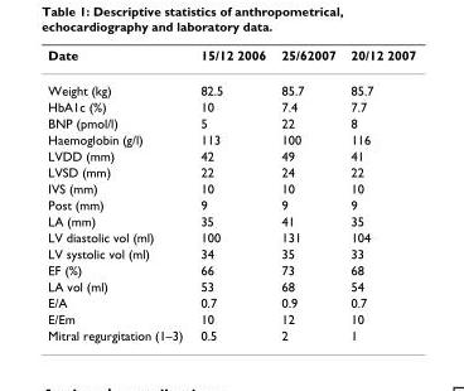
<table><thead><tr><td>Date</td><td>15/12 2006</td><td>25/62007</td><td>20/12 2007</td></tr></thead><tbody><tr><td>Weight (kg)</td><td>82.5</td><td>85.7</td><td>85.7</td></tr><tr><td>HbA1c (%)</td><td>10</td><td>7.4</td><td>7.7</td></tr><tr><td>BNP (pmol/l)</td><td>5</td><td>22</td><td>8</td></tr><tr><td>Haemoglobin (g/l)</td><td>113</td><td>100</td><td>116</td></tr><tr><td>LVDD (mm)</td><td>42</td><td>49</td><td>41</td></tr><tr><td>LVSD (mm)</td><td>22</td><td>24</td><td>22</td></tr><tr><td>IVS (mm)</td><td>10</td><td>10</td><td>10</td></tr><tr><td>Post (mm)</td><td>9</td><td>9</td><td>9</td></tr><tr><td>LA (mm)</td><td>35</td><td>41</td><td>35</td></tr><tr><td>LV diastolic vol (ml)</td><td>100</td><td>131</td><td>104</td></tr><tr><td>LV systolic vol (ml)</td><td>34</td><td>35</td><td>33</td></tr><tr><td>EF (%)</td><td>66</td><td>73</td><td>68</td></tr><tr><td>LA vol (ml)</td><td>53</td><td>68</td><td>54</td></tr><tr><td>E/A</td><td>0.7</td><td>0.9</td><td>0.7</td></tr><tr><td>E/Em</td><td>10</td><td>12</td><td>10</td></tr><tr><td>Mitral regurgitation (1–3)</td><td>0.5</td><td>2</td><td>1</td></tr></tbody></table>